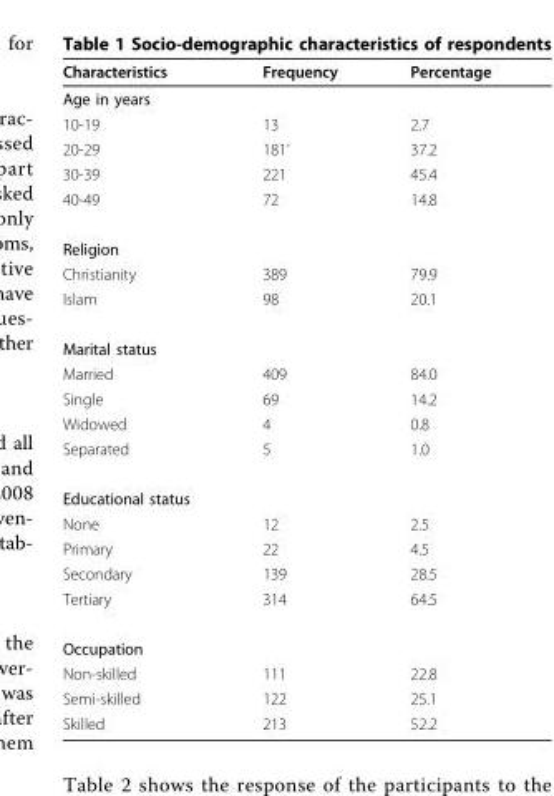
<table><thead><tr><td>Characteristics</td><td>Frequency</td><td>Percentage</td></tr></thead><tbody><tr><td colspan="3">Age in years</td></tr><tr><td>10-19</td><td>13</td><td>2.7</td></tr><tr><td>20-29</td><td>181’</td><td>37.2</td></tr><tr><td>30-39</td><td>221</td><td>45.4</td></tr><tr><td>40-49</td><td>72</td><td>14.8</td></tr><tr><td colspan="3">Religion</td></tr><tr><td>Christianity</td><td>389</td><td>79.9</td></tr><tr><td>Islam</td><td>98</td><td>20.1</td></tr><tr><td colspan="3">Marital status</td></tr><tr><td>Married</td><td>409</td><td>84.0</td></tr><tr><td>Single</td><td>69</td><td>14.2</td></tr><tr><td>Widowed</td><td>4</td><td>0.8</td></tr><tr><td>Separated</td><td>5</td><td>1.0</td></tr><tr><td colspan="3">Educational status</td></tr><tr><td>None</td><td>12</td><td>2.5</td></tr><tr><td>Primary</td><td>22</td><td>4.5</td></tr><tr><td>Secondary</td><td>139</td><td>28.5</td></tr><tr><td>Tertiary</td><td>314</td><td>64.5</td></tr><tr><td colspan="3">Occupation</td></tr><tr><td>Non-skilled</td><td>111</td><td>22.8</td></tr><tr><td>Semi-skilled</td><td>122</td><td>25.1</td></tr><tr><td>Skilled</td><td>213</td><td>52.2</td></tr></tbody></table>